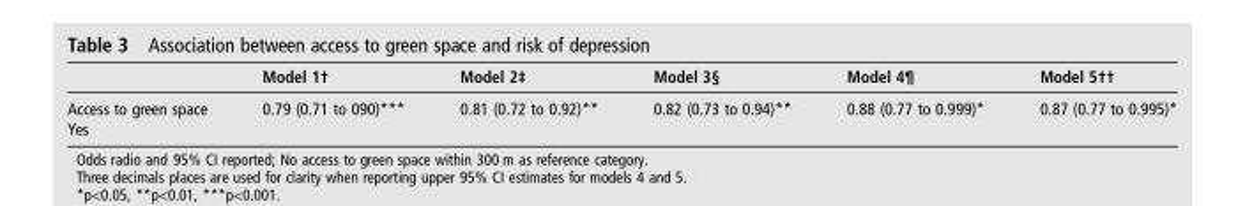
<table><thead><tr><td></td><td>Model 1†</td><td>Model 2‡</td><td>Model 3§</td><td>Model 4¶</td><td>Model 5††</td></tr></thead><tbody><tr><td>Access to green space Yes</td><td>0.79 (0.71 to 090)***</td><td>0.81 (0.72 to 0.92)**</td><td>0.82 (0.73 to 0.94)**</td><td>0.88 (0.77 to 0.999)*</td><td>0.87 (0.77 to 0.995)*</td></tr></tbody></table>